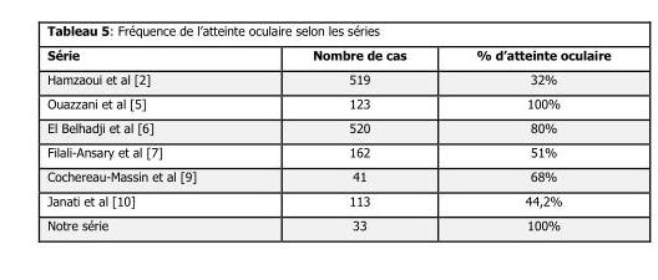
<table><thead><tr><td>Série</td><td>Nombre de cas</td><td>% d’atteinte oculaire</td></tr></thead><tbody><tr><td>Hamzaoui et al [2]</td><td>519</td><td>32%</td></tr><tr><td>Ouazzani et al [5]</td><td>123</td><td>100%</td></tr><tr><td>El Belhadji et al [6]</td><td>520</td><td>80%</td></tr><tr><td>Filali-Ansary et al [7]</td><td>162</td><td>51%</td></tr><tr><td>Cochereau-Massin et al [9]</td><td>41</td><td>68%</td></tr><tr><td>Janati et al [10]</td><td>113</td><td>44,2%</td></tr><tr><td>Notre série</td><td>33</td><td>100%</td></tr></tbody></table>